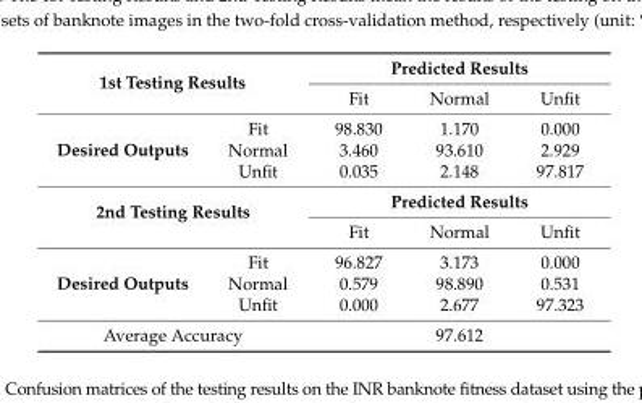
<table><tbody><tr><td rowspan="2" colspan="2">1st Testing Results</td><td colspan="3">Predicted Results</td></tr><tr><td>Fit</td><td>Normal</td><td>Unfit</td></tr><tr><td rowspan="3">Desired Outputs</td><td>Fit</td><td>98.830</td><td>1.170</td><td>0.000</td></tr><tr><td>Normal</td><td>3.460</td><td>93.610</td><td>2.929</td></tr><tr><td>Unfit</td><td>0.035</td><td>2.148</td><td>97.817</td></tr><tr><td rowspan="2" colspan="2">2nd Testing Results</td><td colspan="3">Predicted Results</td></tr><tr><td>Fit</td><td>Normal</td><td>Unfit</td></tr><tr><td rowspan="3">Desired Outputs</td><td>Fit</td><td>96.827</td><td>3.173</td><td>0.000</td></tr><tr><td>Normal</td><td>0.579</td><td>98.890</td><td>0.531</td></tr><tr><td>Unfit</td><td>0.000</td><td>2.677</td><td>97.323</td></tr><tr><td colspan="2">Average Accuracy</td><td colspan="3">97.612</td></tr></tbody></table>